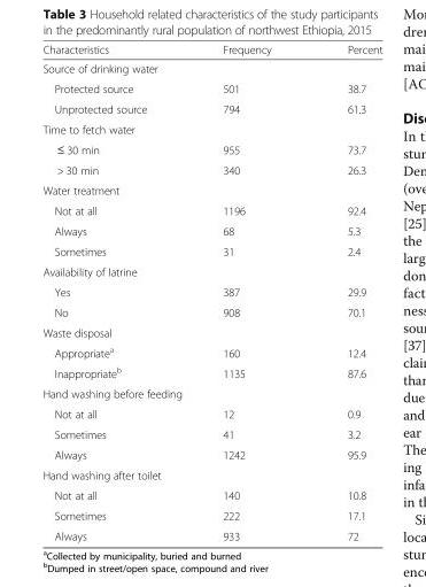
<table><thead><tr><td>Characteristics</td><td>Frequency</td><td>Percent</td></tr></thead><tbody><tr><td colspan="3">Source of drinking water</td></tr><tr><td>Protected source</td><td>501</td><td>38.7</td></tr><tr><td>Unprotected source</td><td>794</td><td>61.3</td></tr><tr><td colspan="3">Time to fetch water</td></tr><tr><td>≤ 30 min</td><td>955</td><td>73.7</td></tr><tr><td>&gt; 30 min</td><td>340</td><td>26.3</td></tr><tr><td colspan="3">Water treatment</td></tr><tr><td>Not at all</td><td>1196</td><td>92.4</td></tr><tr><td>Always</td><td>68</td><td>5.3</td></tr><tr><td>Sometimes</td><td>31</td><td>2.4</td></tr><tr><td colspan="3">Availability of latrine</td></tr><tr><td>Yes</td><td>387</td><td>29.9</td></tr><tr><td>No</td><td>908</td><td>70.1</td></tr><tr><td colspan="3">Waste disposal</td></tr><tr><td>Appropriate<sup>a</sup></td><td>160</td><td>12.4</td></tr><tr><td>Inappropriate<sup>b</sup></td><td>1135</td><td>87.6</td></tr><tr><td colspan="3">Hand washing before feeding</td></tr><tr><td>Not at all</td><td>12</td><td>0.9</td></tr><tr><td>Sometimes</td><td>41</td><td>3.2</td></tr><tr><td>Always</td><td>1242</td><td>95.9</td></tr><tr><td colspan="3">Hand washing after toilet</td></tr><tr><td>Not at all</td><td>140</td><td>10.8</td></tr><tr><td>Sometimes</td><td>222</td><td>17.1</td></tr><tr><td>Always</td><td>933</td><td>72</td></tr></tbody></table>